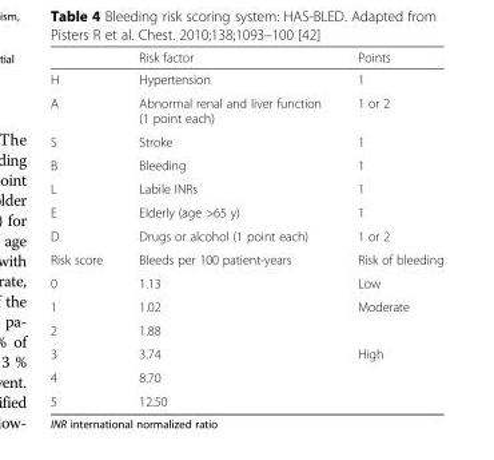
<table><thead><tr><td></td><td>Risk factor</td><td>Points</td></tr></thead><tbody><tr><td>H</td><td>Hypertension</td><td>1</td></tr><tr><td>A</td><td>Abnormal renal and liver function (1 point each)</td><td>1 or 2</td></tr><tr><td>S</td><td>Stroke</td><td>1</td></tr><tr><td>B</td><td>Bleeding</td><td>1</td></tr><tr><td>L</td><td>Labile INRs</td><td>1</td></tr><tr><td>E</td><td>Elderly (age &gt;65 y)</td><td>1</td></tr><tr><td>D</td><td>Drugs or alcohol (1 point each)</td><td>1 or 2</td></tr><tr><td>Risk score</td><td>Bleeds per 100 patient-years</td><td>Risk of bleeding</td></tr><tr><td>0</td><td>1.13</td><td>Low</td></tr><tr><td>1</td><td>1.02</td><td rowspan="2">Moderate</td></tr><tr><td>2</td><td>1.88</td></tr><tr><td>3</td><td>3.74</td><td rowspan="3">High</td></tr><tr><td>4</td><td>8.70</td></tr><tr><td>5</td><td>12.50</td></tr></tbody></table>